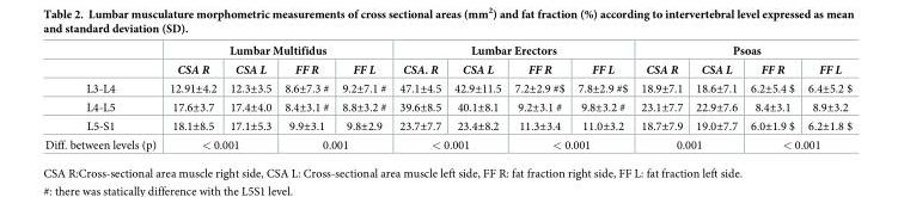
<table><thead><tr><td rowspan="2"></td><td colspan="4">Lumbar Multifidus</td><td colspan="4">Lumbar Erectors</td><td colspan="4">Psoas</td></tr><tr><td>CSA R</td><td>CSA L</td><td>FF R</td><td>FF L</td><td>CSA. R</td><td>CSA L</td><td>FF R</td><td>FF L</td><td>CSA R</td><td>CSA L</td><td>FF R</td><td>FF L</td></tr></thead><tbody><tr><td>L3-L4</td><td>12.91±4.2</td><td>12.3±3.5</td><td>8.6±7.3 #</td><td>9.2±7.1 #</td><td>47.1±4.5</td><td>42.9±11.5</td><td>7.2±2.9 #$</td><td>7.8±2.9 #$</td><td>18.9±7.1</td><td>18.6±7.1</td><td>6.2±5.4 $</td><td>6.4±5.2 $</td></tr><tr><td>L4-L5</td><td>17.6±3.7</td><td>17.4±4.0</td><td>8.4±3.1 #</td><td>8.8±3.2 #</td><td>39.6±8.5</td><td>40.1±8.1</td><td>9.2±3.1 #</td><td>9.8±3.2 #</td><td>23.1±7.7</td><td>22.9±7.6</td><td>8.4±3.1</td><td>8.9±3.2</td></tr><tr><td>L5-S1</td><td>18.1±8.5</td><td>17.1±5.3</td><td>9.9±3.1</td><td>9.8±2.9</td><td>23.7±7.7</td><td>23.4±8.2</td><td>11.3±3.4</td><td>11.0±3.2</td><td>18.7±7.9</td><td>19.0±7.7</td><td>6.0±1.9 $</td><td>6.2±1.8 $</td></tr><tr><td>Diff. between levels (p)</td><td colspan="2">&lt; 0.001</td><td colspan="2">0.001</td><td colspan="2">&lt; 0.001</td><td colspan="2">&lt; 0.001</td><td colspan="2">0.001</td><td colspan="2">&lt; 0.001</td></tr></tbody></table>